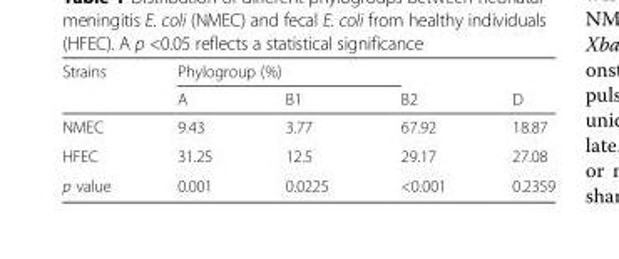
<table><thead><tr><td rowspan="2">Strains</td><td colspan="2">Phylogroup (%)</td><td rowspan="2">B2</td><td rowspan="2">D</td></tr><tr><td>A</td><td>B1</td></tr></thead><tbody><tr><td>NMEC</td><td>9.43</td><td>3.77</td><td>67.92</td><td>18.87</td></tr><tr><td>HFEC</td><td>31.25</td><td>12.5</td><td>29.17</td><td>27.08</td></tr><tr><td>p value</td><td>0.001</td><td>0.0225</td><td>&lt;0.001</td><td>0.2359</td></tr></tbody></table>